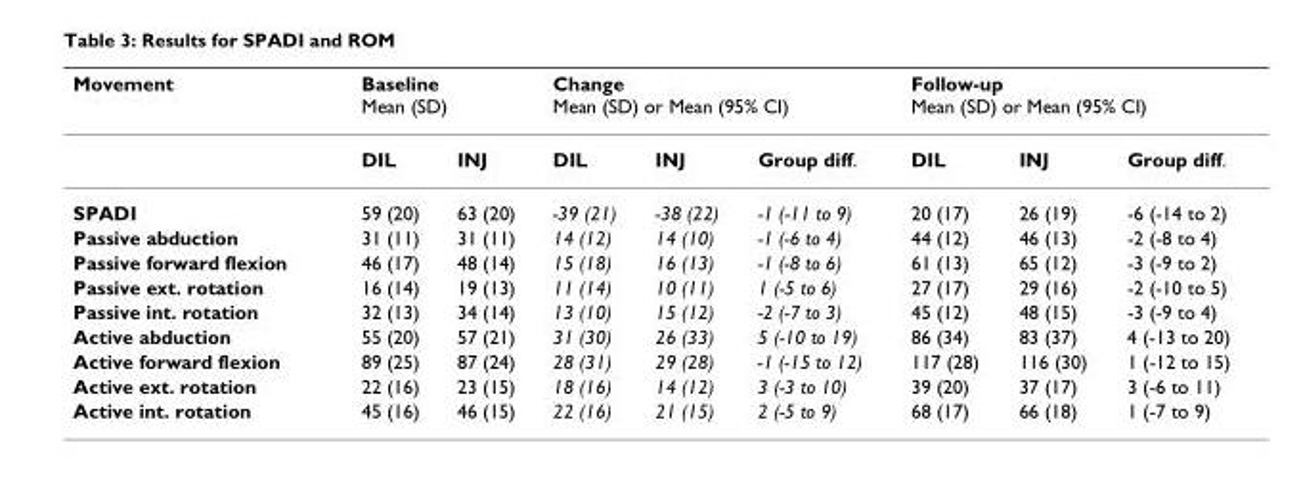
<table><thead><tr><td rowspan="2">Movement</td><td colspan="2">Baseline Mean (SD)</td><td colspan="3">Change Mean (SD) or Mean (95% CI)</td><td colspan="3">Follow-up Mean (SD) or Mean (95% CI)</td></tr><tr><td>DIL</td><td>INJ</td><td>DIL</td><td>INJ</td><td>Group diff.</td><td>DIL</td><td>INJ</td><td>Group diff.</td></tr></thead><tbody><tr><td>SPADI</td><td>59 (20)</td><td>63 (20)</td><td>-39 (21)</td><td>-38 (22)</td><td>-1 (-11 to 9)</td><td>20 (17)</td><td>26 (19)</td><td>-6 (-14 to 2)</td></tr><tr><td>Passive abduction</td><td>31 (11)</td><td>31 (11)</td><td>14 (12)</td><td>14 (10)</td><td>-1 (-6 to 4)</td><td>44 (12)</td><td>46 (13)</td><td>-2 (-8 to 4)</td></tr><tr><td>Passive forward flexion</td><td>46 (17)</td><td>48 (14)</td><td>15 (18)</td><td>16 (13)</td><td>-1 (-8 to 6)</td><td>61 (13)</td><td>65 (12)</td><td>-3 (-9 to 2)</td></tr><tr><td>Passive ext. rotation</td><td>16 (14)</td><td>19 (13)</td><td>11 (14)</td><td>10 (11)</td><td>1 (-5 to 6)</td><td>27 (17)</td><td>29 (16)</td><td>-2 (-10 to 5)</td></tr><tr><td>Passive int. rotation</td><td>32 (13)</td><td>34 (14)</td><td>13 (10)</td><td>15 (12)</td><td>-2 (-7 to 3)</td><td>45 (12)</td><td>48 (15)</td><td>-3 (-9 to 4)</td></tr><tr><td>Active abduction</td><td>55 (20)</td><td>57 (21)</td><td>31 (30)</td><td>26 (33)</td><td>5 (-10 to 19)</td><td>86 (34)</td><td>83 (37)</td><td>4 (-13 to 20)</td></tr><tr><td>Active forward flexion</td><td>89 (25)</td><td>87 (24)</td><td>28 (31)</td><td>29 (28)</td><td>-1 (-15 to 12)</td><td>117 (28)</td><td>116 (30)</td><td>1 (-12 to 15)</td></tr><tr><td>Active ext. rotation</td><td>22 (16)</td><td>23 (15)</td><td>18 (16)</td><td>14 (12)</td><td>3 (-3 to 10)</td><td>39 (20)</td><td>37 (17)</td><td>3 (-6 to 11)</td></tr><tr><td>Active int. rotation</td><td>45 (16)</td><td>46 (15)</td><td>22 (16)</td><td>21 (15)</td><td>2 (-5 to 9)</td><td>68 (17)</td><td>66 (18)</td><td>1 (-7 to 9)</td></tr></tbody></table>